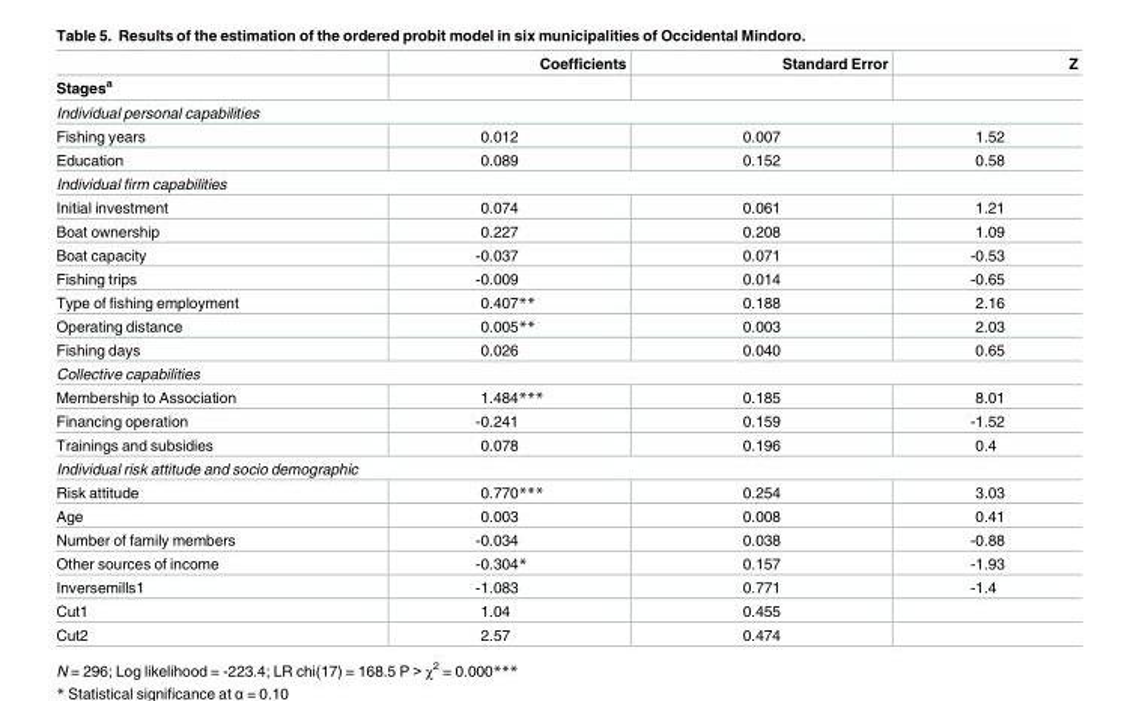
<table><thead><tr><td rowspan="2">Stages<sup>a</sup></td><td rowspan="2">Coefficients</td><td rowspan="2">Standard Error</td><td rowspan="2">Z</td></tr><tr></tr></thead><tbody><tr><td colspan="4">Individual personal capabilities</td></tr><tr><td>Fishing years</td><td>0.012</td><td>0.007</td><td>1.52</td></tr><tr><td>Education</td><td>0.089</td><td>0.152</td><td>0.58</td></tr><tr><td colspan="4">Individual firm capabilities</td></tr><tr><td>Initial investment</td><td>0.074</td><td>0.061</td><td>1.21</td></tr><tr><td>Boat ownership</td><td>0.227</td><td>0.208</td><td>1.09</td></tr><tr><td>Boat capacity</td><td>-0.037</td><td>0.071</td><td>-0.53</td></tr><tr><td>Fishing trips</td><td>-0.009</td><td>0.014</td><td>-0.65</td></tr><tr><td>Type of fishing employment</td><td>0.407**</td><td>0.188</td><td>2.16</td></tr><tr><td>Operating distance</td><td>0.005**</td><td>0.003</td><td>2.03</td></tr><tr><td>Fishing days</td><td>0.026</td><td>0.040</td><td>0.65</td></tr><tr><td colspan="4">Collective capabilities</td></tr><tr><td>Membership to Association</td><td>1.484***</td><td>0.185</td><td>8.01</td></tr><tr><td>Financing operation</td><td>-0.241</td><td>0.159</td><td>-1.52</td></tr><tr><td>Trainings and subsidies</td><td>0.078</td><td>0.196</td><td>0.4</td></tr><tr><td colspan="4">Individual risk attitude and socio demographic</td></tr><tr><td>Risk attitude</td><td>0.770***</td><td>0.254</td><td>3.03</td></tr><tr><td>Age</td><td>0.003</td><td>0.008</td><td>0.41</td></tr><tr><td>Number of family members</td><td>-0.034</td><td>0.038</td><td>-0.88</td></tr><tr><td>Other sources of income</td><td>-0.304*</td><td>0.157</td><td>-1.93</td></tr><tr><td>Inversemills1</td><td>-1.083</td><td>0.771</td><td>-1.4</td></tr><tr><td>Cut1</td><td>1.04</td><td>0.455</td><td></td></tr><tr><td>Cut2</td><td>2.57</td><td>0.474</td><td></td></tr></tbody></table>